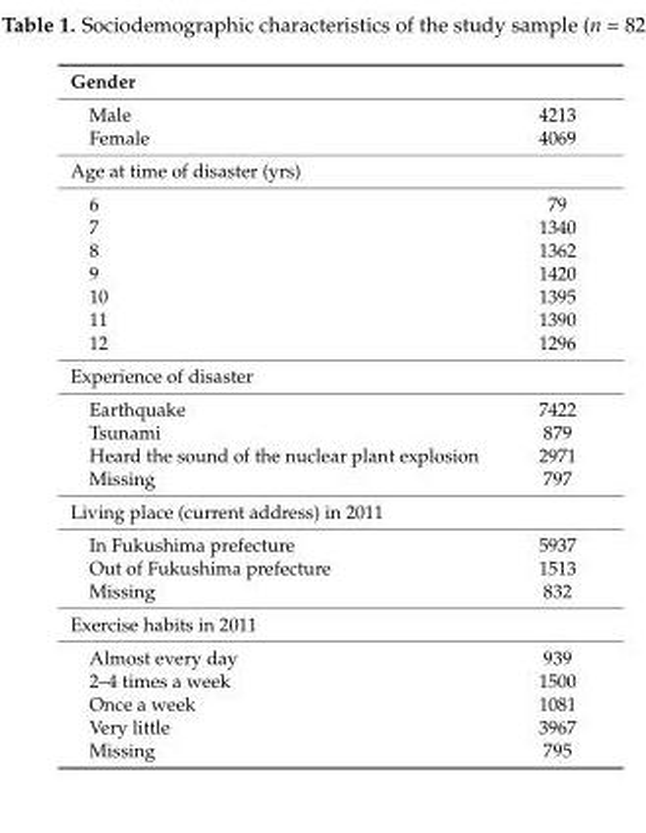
<table><thead><tr><td colspan="2">Gender</td></tr><tr><td>Male</td><td>4213</td></tr></thead><tbody><tr><td>Female</td><td>4069</td></tr><tr><td colspan="2">Age at time of disaster (yrs)</td></tr><tr><td>6</td><td>79</td></tr><tr><td>7</td><td>1340</td></tr><tr><td>8</td><td>1362</td></tr><tr><td>9</td><td>1420</td></tr><tr><td>10</td><td>1395</td></tr><tr><td>11</td><td>1390</td></tr><tr><td>12</td><td>1296</td></tr><tr><td colspan="2">Experience of disaster</td></tr><tr><td>Earthquake</td><td>7422</td></tr><tr><td>Tsunami</td><td>879</td></tr><tr><td>Heard the sound of the nuclear plant explosion</td><td>2971</td></tr><tr><td>Missing</td><td>797</td></tr><tr><td colspan="2">Living place (current address) in 2011</td></tr><tr><td>In Fukushima prefecture</td><td>5937</td></tr><tr><td>Out of Fukushima prefecture</td><td>1513</td></tr><tr><td>Missing</td><td>832</td></tr><tr><td colspan="2">Exercise habits in 2011</td></tr><tr><td>Almost every day</td><td>939</td></tr><tr><td>2–4 times a week</td><td>1500</td></tr><tr><td>Once a week</td><td>1081</td></tr><tr><td>Very little</td><td>3967</td></tr><tr><td>Missing</td><td>795</td></tr></tbody></table>